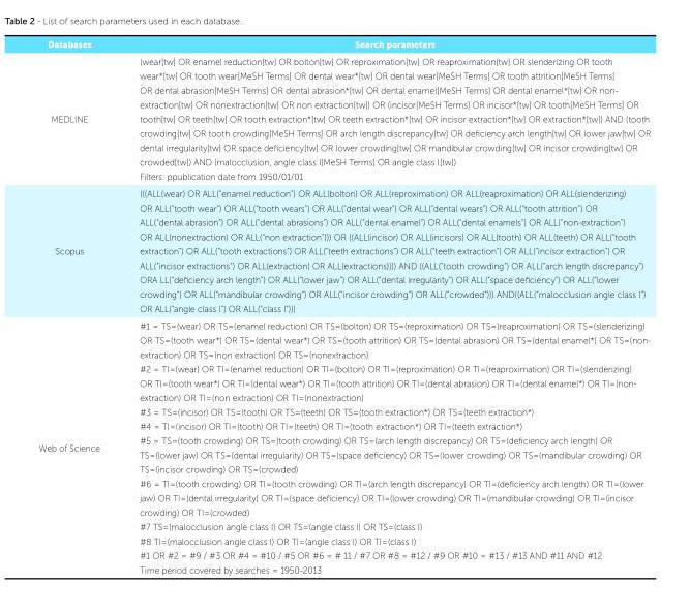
<table><thead><tr><td>Databases</td><td>Search parameters</td></tr></thead><tbody><tr><td>MEDLINE</td><td>(wear[tw] OR enamel reduction[tw] OR bolton[tw] OR reproximation[tw] OR reaproximation[tw] OR slenderizing OR tooth wear*[tw] OR tooth wear[MeSH Terms] OR dental wear*[tw] OR dental wear[MeSH Terms] OR tooth attrition[MeSH Terms] OR dental abrasion[MeSH Terms] OR dental abrasion*[tw] OR dental enamel[MeSH Terms] OR dental enamel*[tw] OR non- extraction[tw] OR nonextraction[tw] OR non extraction[tw]) OR (incisor[MeSH Terms] OR incisor*[tw] OR tooth[MeSH Terms] OR tooth[tw] OR teeth[tw] OR tooth extraction*[tw] OR teeth extraction*[tw] OR incisor extraction*[tw] OR extraction*[tw]) AND (tooth crowding[tw] OR tooth crowding[MeSH Terms] OR arch length discrepancy[tw] OR deficiency arch length[tw] OR lower jaw[tw] OR dental irregularity[tw] OR space deficiency[tw] OR lower crowding[tw] OR mandibular crowding[tw] OR incisor crowding[tw] OR crowded[tw]) AND (malocclusion, angle class I[MeSH Terms] OR angle class I[tw]) Filters: ppublication date from 1950/01/01</td></tr><tr><td>Scopus</td><td>(((ALL(wear) OR ALL(“enamel reduction”) OR ALL(bolton) OR ALL(reproximation) OR ALL(reaproximation) OR ALL(slenderizing) OR ALL(“tooth wear”) OR ALL(“tooth wears”) OR ALL(“dental wear”) OR ALL(“dental wears”) OR ALL(“tooth attrition”) OR ALL(“dental abrasion”) OR ALL(“dental abrasions”) OR ALL(“dental enamel”) OR ALL(“dental enamels”) OR ALL(“non-extraction”) OR ALL(nonextraction) OR ALL(“non extraction”))) OR ((ALL(incisor) OR ALL(incisors) OR ALL(tooth) OR ALL(teeth) OR ALL(“tooth extraction”) OR ALL(“tooth extractions”) OR ALL(“teeth extractions”) OR ALL(“teeth extraction”) OR ALL(“incisor extraction”) OR ALL(“incisor extractions”) OR ALL(extraction) OR ALL(extractions)))) AND ((ALL(“tooth crowding”) OR ALL(“arch length discrepancy”) ORA LL(“deficiency arch length”) OR ALL(“lower jaw”) OR ALL(“dental irregularity”) OR ALL(“space deficiency”) OR ALL(“lower crowding”) OR ALL(“mandibular crowding”) OR ALL(“incisor crowding”) OR ALL(“crowded”))) AND((ALL(“malocclusion angle class I”) OR ALL(“angle class I”) OR ALL(“class I”)))</td></tr><tr><td>Web of Science</td><td>#1 = TS=(wear) OR TS=(enamel reduction) OR TS=(bolton) OR TS=(reproximation) OR TS=(reaproximation) OR TS=(slenderizing) OR TS=(tooth wear*) OR TS=(dental wear*) OR TS=(tooth attrition) OR TS=(dental abrasion) OR TS=(dental enamel*) OR TS=(non- extraction) OR TS=(non extraction) OR TS=(nonextraction) #2 = TI=(wear) OR TI=(enamel reduction) OR TI=(bolton) OR TI=(reproximation) OR TI=(reaproximation) OR TI=(slenderizing) OR TI=(tooth wear*) OR TI=(dental wear*) OR TI=(tooth attrition) OR TI=(dental abrasion) OR TI=(dental enamel*) OR TI=(non- extraction) OR TI=(non extraction) OR TI=(nonextraction) #3 = TS=(incisor) OR TS=(tooth) OR TS=(teeth) OR TS=(tooth extraction*) OR TS=(teeth extraction*) #4 = TI=(incisor) OR TI=(tooth) OR TI=(teeth) OR TI=(tooth extraction*) OR TI=(teeth extraction*) #5 = TS=(tooth crowding) OR TS=(tooth crowding) OR TS=(arch length discrepancy) OR TS=(deficiency arch length) OR TS=(lower jaw) OR TS=(dental irregularity) OR TS=(space deficiency) OR TS=(lower crowding) OR TS=(mandibular crowding) OR TS=(incisor crowding) OR TS=(crowded) #6 = TI=(tooth crowding) OR TI=(tooth crowding) OR TI=(arch length discrepancy) OR TI=(deficiency arch length) OR TI=(lower jaw) OR TI=(dental irregularity) OR TI=(space deficiency) OR TI=(lower crowding) OR TI=(mandibular crowding) OR TI=(incisor crowding) OR TI=(crowded) #7 TS=(malocclusion angle class I) OR TS=(angle class I) OR TS=(class I) #8 TI=(malocclusion angle class I) OR TI=(angle class I) OR TI=(class I) #1 OR #2 = #9 / #3 OR #4 = #10 / #5 OR #6 = # 11 / #7 OR #8 = #12 / #9 OR #10 = #13 / #13 AND #11 AND #12 Time period covered by searches = 1950-2013</td></tr></tbody></table>